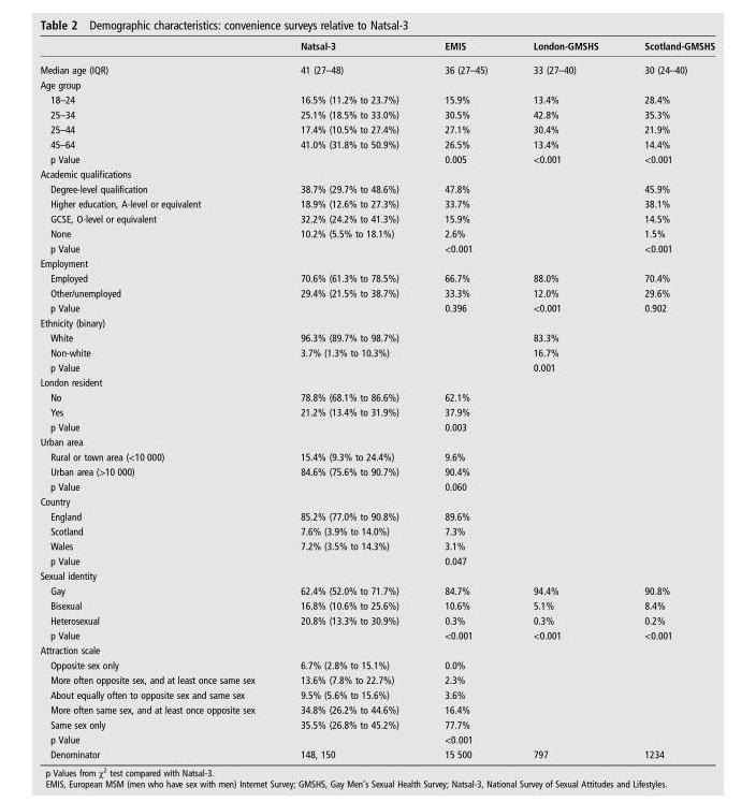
<table><thead><tr><td></td><td>Natsal-3</td><td>EMIS</td><td>London-GMSHS</td><td>Scotland-GMSHS</td></tr></thead><tbody><tr><td>Median age (IQR)</td><td>41 (27–48)</td><td>36 (27–45)</td><td>33 (27–40)</td><td>30 (24–40)</td></tr><tr><td colspan="5">Age group</td></tr><tr><td>18–24</td><td>16.5% (11.2% to 23.7%)</td><td>15.9%</td><td>13.4%</td><td>28.4%</td></tr><tr><td>25–34</td><td>25.1% (18.5% to 33.0%)</td><td>30.5%</td><td>42.8%</td><td>35.3%</td></tr><tr><td>25–44</td><td>17.4% (10.5% to 27.4%)</td><td>27.1%</td><td>30.4%</td><td>21.9%</td></tr><tr><td>45–64</td><td>41.0% (31.8% to 50.9%)</td><td>26.5%</td><td>13.4%</td><td>14.4%</td></tr><tr><td>p Value</td><td></td><td>0.005</td><td>&lt;0.001</td><td>&lt;0.001</td></tr><tr><td colspan="5">Academic qualifications</td></tr><tr><td>Degree-level qualification</td><td>38.7% (29.7% to 48.6%)</td><td>47.8%</td><td></td><td>45.9%</td></tr><tr><td>Higher education, A-level or equivalent</td><td>18.9% (12.6% to 27.3%)</td><td>33.7%</td><td></td><td>38.1%</td></tr><tr><td>GCSE, O-level or equivalent</td><td>32.2% (24.2% to 41.3%)</td><td>15.9%</td><td></td><td>14.5%</td></tr><tr><td>None</td><td>10.2% (5.5% to 18.1%)</td><td>2.6%</td><td></td><td>1.5%</td></tr><tr><td>p Value</td><td></td><td>&lt;0.001</td><td></td><td>&lt;0.001</td></tr><tr><td colspan="5">Employment</td></tr><tr><td>Employed</td><td>70.6% (61.3% to 78.5%)</td><td>66.7%</td><td>88.0%</td><td>70.4%</td></tr><tr><td>Other/unemployed</td><td>29.4% (21.5% to 38.7%)</td><td>33.3%</td><td>12.0%</td><td>29.6%</td></tr><tr><td>p Value</td><td></td><td>0.396</td><td>&lt;0.001</td><td>0.902</td></tr><tr><td colspan="5">Ethnicity (binary)</td></tr><tr><td>White</td><td>96.3% (89.7% to 98.7%)</td><td></td><td>83.3%</td><td></td></tr><tr><td>Non-white</td><td>3.7% (1.3% to 10.3%)</td><td></td><td>16.7%</td><td></td></tr><tr><td>p Value</td><td></td><td></td><td>0.001</td><td></td></tr><tr><td colspan="5">London resident</td></tr><tr><td>No</td><td>78.8% (68.1% to 86.6%)</td><td>62.1%</td><td></td><td></td></tr><tr><td>Yes</td><td>21.2% (13.4% to 31.9%)</td><td>37.9%</td><td></td><td></td></tr><tr><td>p Value</td><td></td><td>0.003</td><td></td><td></td></tr><tr><td colspan="5">Urban area</td></tr><tr><td>Rural or town area (&lt;10 000)</td><td>15.4% (9.3% to 24.4%)</td><td>9.6%</td><td></td><td></td></tr><tr><td>Urban area (&gt;10 000)</td><td>84.6% (75.6% to 90.7%)</td><td>90.4%</td><td></td><td></td></tr><tr><td>p Value</td><td></td><td>0.060</td><td></td><td></td></tr><tr><td colspan="5">Country</td></tr><tr><td>England</td><td>85.2% (77.0% to 90.8%)</td><td>89.6%</td><td></td><td></td></tr><tr><td>Scotland</td><td>7.6% (3.9% to 14.0%)</td><td>7.3%</td><td></td><td></td></tr><tr><td>Wales</td><td>7.2% (3.5% to 14.3%)</td><td>3.1%</td><td></td><td></td></tr><tr><td>p Value</td><td></td><td>0.047</td><td></td><td></td></tr><tr><td colspan="5">Sexual identity</td></tr><tr><td>Gay</td><td>62.4% (52.0% to 71.7%)</td><td>84.7%</td><td>94.4%</td><td>90.8%</td></tr><tr><td>Bisexual</td><td>16.8% (10.6% to 25.6%)</td><td>10.6%</td><td>5.1%</td><td>8.4%</td></tr><tr><td>Heterosexual</td><td>20.8% (13.3% to 30.9%)</td><td>0.3%</td><td>0.3%</td><td>0.2%</td></tr><tr><td>p Value</td><td></td><td>&lt;0.001</td><td>&lt;0.001</td><td>&lt;0.001</td></tr><tr><td colspan="5">Attraction scale</td></tr><tr><td>Opposite sex only</td><td>6.7% (2.8% to 15.1%)</td><td>0.0%</td><td></td><td></td></tr><tr><td>More often opposite sex, and at least once same sex</td><td>13.6% (7.8% to 22.7%)</td><td>2.3%</td><td></td><td></td></tr><tr><td>About equally often to opposite sex and same sex</td><td>9.5% (5.6% to 15.6%)</td><td>3.6%</td><td></td><td></td></tr><tr><td>More often same sex, and at least once opposite sex</td><td>34.8% (26.2% to 44.6%)</td><td>16.4%</td><td></td><td></td></tr><tr><td>Same sex only</td><td>35.5% (26.8% to 45.2%)</td><td>77.7%</td><td></td><td></td></tr><tr><td>p Value</td><td></td><td>&lt;0.001</td><td></td><td></td></tr><tr><td>Denominator</td><td>148, 150</td><td>15 500</td><td>797</td><td>1234</td></tr></tbody></table>